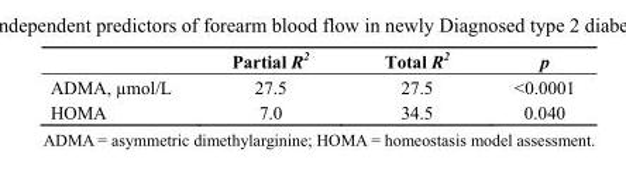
<table><thead><tr><td></td><td>Partial R<sup>2</sup></td><td>Total R<sup>2</sup></td><td>p</td></tr></thead><tbody><tr><td>ADMA, µmol/L</td><td>27.5</td><td>27.5</td><td>&lt;0.0001</td></tr><tr><td>HOMA</td><td>7.0</td><td>34.5</td><td>0.040</td></tr></tbody></table>